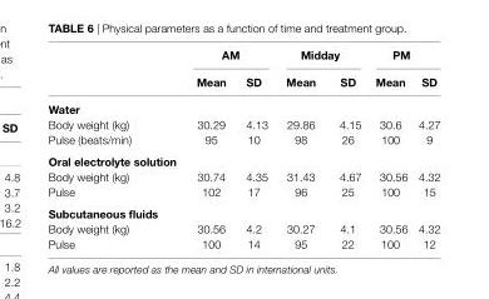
<table><thead><tr><td rowspan="2"></td><td colspan="2">aM</td><td colspan="2">Midday</td><td colspan="2">PM</td></tr><tr><td>Mean</td><td>sD</td><td>Mean</td><td>sD</td><td>Mean</td><td>sD</td></tr></thead><tbody><tr><td colspan="7">Water</td></tr><tr><td>Body weight (kg)</td><td>30.29</td><td>4.13</td><td>29.86</td><td>4.15</td><td>30.6</td><td>4.27</td></tr><tr><td>Pulse (beats/min)</td><td>95</td><td>10</td><td>98</td><td>26</td><td>100</td><td>9</td></tr><tr><td colspan="7">Oral electrolyte solution</td></tr><tr><td>Body weight (kg)</td><td>30.74</td><td>4.35</td><td>31.43</td><td>4.67</td><td>30.56</td><td>4.32</td></tr><tr><td>Pulse</td><td>102</td><td>17</td><td>96</td><td>25</td><td>100</td><td>15</td></tr><tr><td colspan="7">subcutaneous fluids</td></tr><tr><td>Body weight (kg)</td><td>30.56</td><td>4.2</td><td>30.27</td><td>4.1</td><td>30.56</td><td>4.32</td></tr><tr><td>Pulse</td><td>100</td><td>14</td><td>95</td><td>22</td><td>100</td><td>12</td></tr></tbody></table>